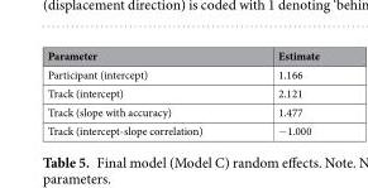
<table><thead><tr><td>Parameter</td><td>Estimate</td></tr></thead><tbody><tr><td>Participant (intercept)</td><td>1.166</td></tr><tr><td>Track (intercept)</td><td>2.121</td></tr><tr><td>Track (slope with accuracy)</td><td>1.477</td></tr><tr><td>Track (intercept-slope correlation)</td><td>−1.000</td></tr></tbody></table>